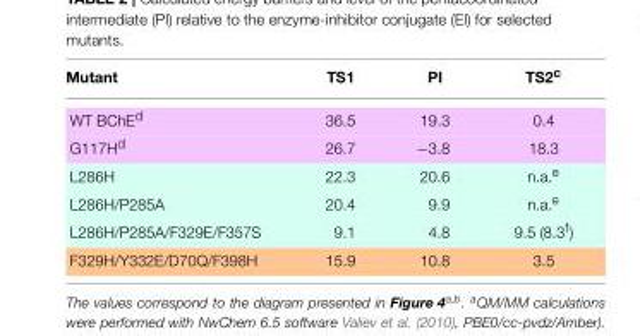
<table><thead><tr><td>Mutant</td><td>TS1</td><td>PI</td><td>TS2<sup>c</sup></td></tr></thead><tbody><tr><td>WT BChE<sup>d</sup></td><td>36.5</td><td>19.3</td><td>0.4</td></tr><tr><td>G117H<sup>d</sup></td><td>26.7</td><td>−3.8</td><td>18.3</td></tr><tr><td>L286H</td><td>22.3</td><td>20.6</td><td>n.a.<sup>e</sup></td></tr><tr><td>L286H/P285A</td><td>20.4</td><td>9.9</td><td>n.a.<sup>e</sup></td></tr><tr><td>L286H/P285A/F329E/F357S</td><td>9.1</td><td>4.8</td><td>9.5 (8.3<sup>f</sup>)</td></tr><tr><td>F329H/Y332E/D70Q/F398H</td><td>15.9</td><td>10.8</td><td>3.5</td></tr></tbody></table>